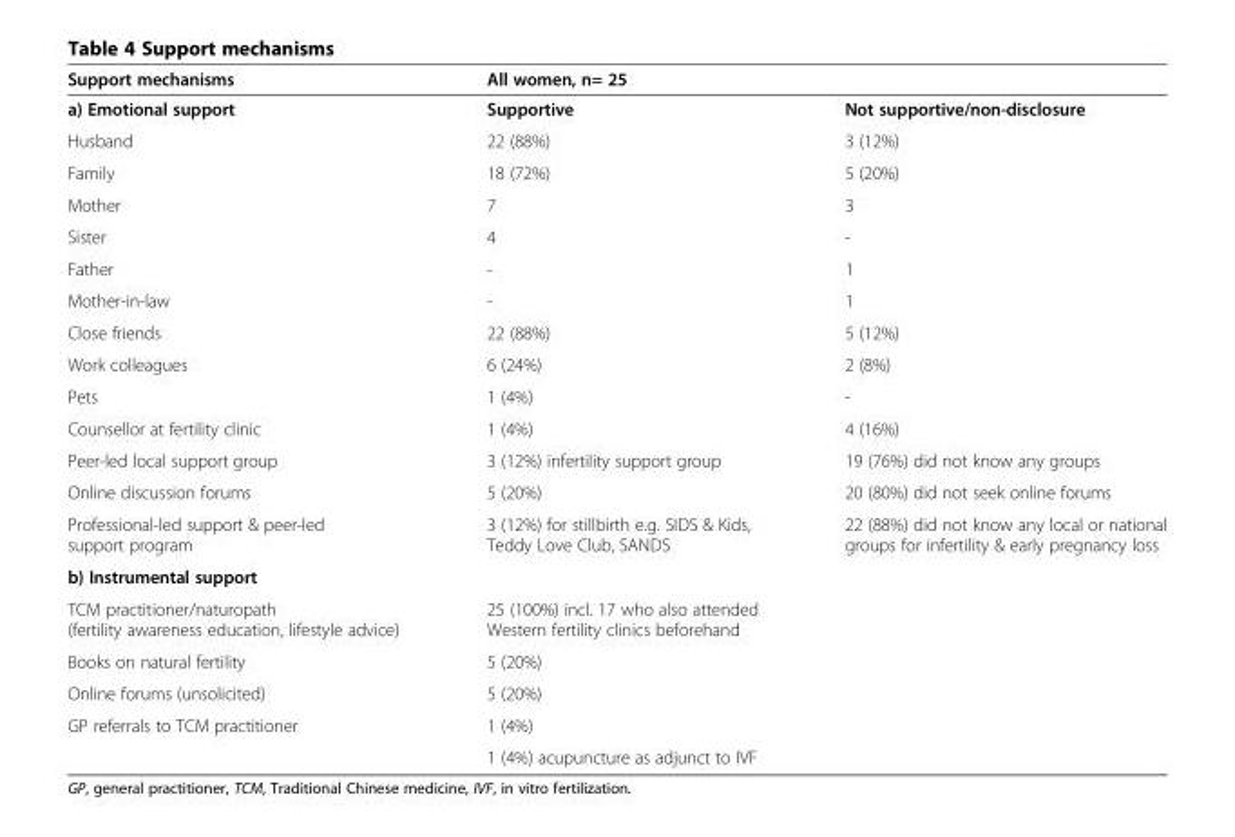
<table><thead><tr><td rowspan="2">Support mechanisms a) Emotional support</td><td colspan="2">All women, n= 25</td></tr><tr><td>Supportive</td><td>Not supportive/non-disclosure</td></tr></thead><tbody><tr><td>Husband</td><td>22 (88%)</td><td>3 (12%)</td></tr><tr><td>Family</td><td>18 (72%)</td><td>5 (20%)</td></tr><tr><td>Mother</td><td>7</td><td>3</td></tr><tr><td>Sister</td><td>4</td><td>-</td></tr><tr><td>Father</td><td>-</td><td>1</td></tr><tr><td>Mother-in-law</td><td>-</td><td>1</td></tr><tr><td>Close friends</td><td>22 (88%)</td><td>5 (12%)</td></tr><tr><td>Work colleagues</td><td>6 (24%)</td><td>2 (8%)</td></tr><tr><td>Pets</td><td>1 (4%)</td><td>-</td></tr><tr><td>Counsellor at fertility clinic</td><td>1 (4%)</td><td>4 (16%)</td></tr><tr><td>Peer-led local support group</td><td>3 (12%) infertility support group</td><td>19 (76%) did not know any groups</td></tr><tr><td>Online discussion forums</td><td>5 (20%)</td><td>20 (80%) did not seek online forums</td></tr><tr><td>Professional-led support &amp; peer-led support program</td><td>3 (12%) for stillbirth e.g. SIDS &amp; Kids, Teddy Love Club, SANDS</td><td>22 (88%) did not know any local or national groups for infertility &amp; early pregnancy loss</td></tr><tr><td colspan="3">b) Instrumental support</td></tr><tr><td>TCM practitioner/naturopath (fertility awareness education, lifestyle advice)</td><td colspan="2">25 (100%) incl. 17 who also attended Western fertility clinics beforehand</td></tr><tr><td>Books on natural fertility</td><td colspan="2">5 (20%)</td></tr><tr><td>Online forums (unsolicited)</td><td colspan="2">5 (20%)</td></tr><tr><td rowspan="2">GP referrals to TCM practitioner</td><td>1 (4%)</td><td></td></tr><tr><td>1 (4%) acupuncture as adjunct to IVF</td><td></td></tr></tbody></table>